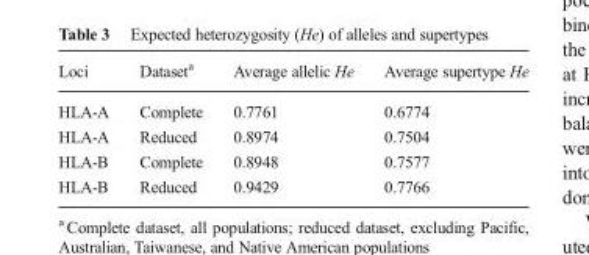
<table><thead><tr><td>Loci</td><td>Dataset<sup>a</sup></td><td>Average allelic He</td><td>Average supertype He</td></tr></thead><tbody><tr><td>HLA-A</td><td>Complete</td><td>0.7761</td><td>0.6774</td></tr><tr><td>HLA-A</td><td>Reduced</td><td>0.8974</td><td>0.7504</td></tr><tr><td>HLA-B</td><td>Complete</td><td>0.8948</td><td>0.7577</td></tr><tr><td>HLA-B</td><td>Reduced</td><td>0.9429</td><td>0.7766</td></tr></tbody></table>